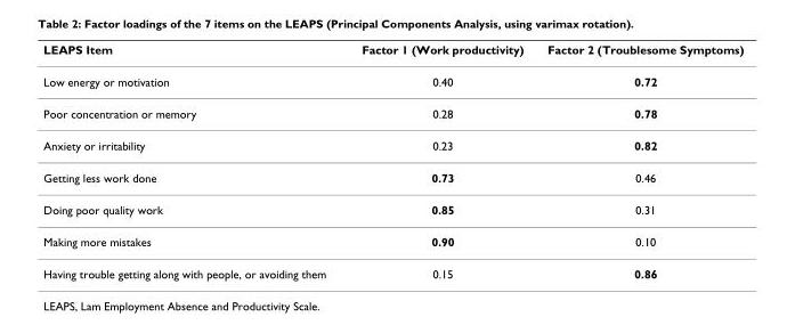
<table><thead><tr><td>LEAPS Item</td><td>Factor 1 (Work productivity)</td><td>Factor 2 (Troublesome Symptoms)</td></tr></thead><tbody><tr><td>Low energy or motivation</td><td>0.40</td><td>0.72</td></tr><tr><td>Poor concentration or memory</td><td>0.28</td><td>0.78</td></tr><tr><td>Anxiety or irritability</td><td>0.23</td><td>0.82</td></tr><tr><td>Getting less work done</td><td>0.73</td><td>0.46</td></tr><tr><td>Doing poor quality work</td><td>0.85</td><td>0.31</td></tr><tr><td>Making more mistakes</td><td>0.90</td><td>0.10</td></tr><tr><td>Having trouble getting along with people, or avoiding them</td><td>0.15</td><td>0.86</td></tr></tbody></table>